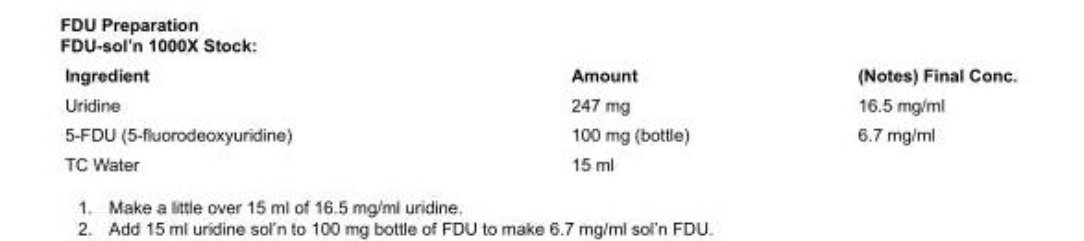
<table><tbody><tr><td>Ingredient</td><td>Amount</td><td>(Notes) Final Conc.</td></tr><tr><td>Uridine</td><td>247 mg</td><td>16.5 mg/ml</td></tr><tr><td>5-FDU (5-fluorodeoxyuridine)</td><td>100 mg (bottle)</td><td>6.7 mg/ml</td></tr><tr><td>TC Water</td><td>15 ml</td><td></td></tr></tbody></table>